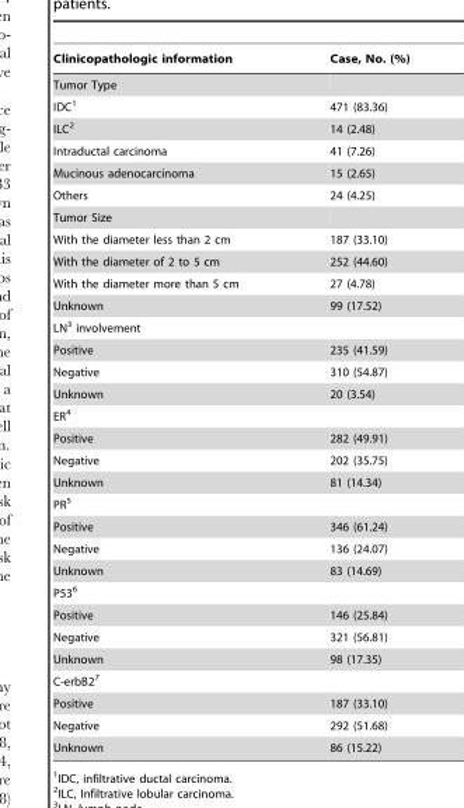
<table><thead><tr><td>Clinicopathologic information</td><td>Case, No. (%)</td></tr></thead><tbody><tr><td colspan="2">Tumor Type</td></tr><tr><td>IDC<sup>1</sup></td><td>471 (83.36)</td></tr><tr><td>ILC<sup>2</sup></td><td>14 (2.48)</td></tr><tr><td>Intraductal carcinoma</td><td>41 (7.26)</td></tr><tr><td>Mucinous adenocarcinoma</td><td>15 (2.65)</td></tr><tr><td>Others</td><td>24 (4.25)</td></tr><tr><td colspan="2">Tumor Size</td></tr><tr><td>With the diameter less than 2 cm</td><td>187 (33.10)</td></tr><tr><td>With the diameter of 2 to 5 cm</td><td>252 (44.60)</td></tr><tr><td>With the diameter more than 5 cm</td><td>27 (4.78)</td></tr><tr><td>Unknown</td><td>99 (17.52)</td></tr><tr><td colspan="2">LN<sup>3</sup> involvement</td></tr><tr><td>Positive</td><td>235 (41.59)</td></tr><tr><td>Negative</td><td>310 (54.87)</td></tr><tr><td>Unknown</td><td>20 (3.54)</td></tr><tr><td colspan="2">ER<sup>4</sup></td></tr><tr><td>Positive</td><td>282 (49.91)</td></tr><tr><td>Negative</td><td>202 (35.75)</td></tr><tr><td>Unknown</td><td>81 (14.34)</td></tr><tr><td colspan="2">PR<sup>5</sup></td></tr><tr><td>Positive</td><td>346 (61.24)</td></tr><tr><td>Negative</td><td>136 (24.07)</td></tr><tr><td>Unknown</td><td>83 (14.69)</td></tr><tr><td colspan="2">P53<sup>6</sup></td></tr><tr><td>Positive</td><td>146 (25.84)</td></tr><tr><td>Negative</td><td>321 (56.81)</td></tr><tr><td>Unknown</td><td>98 (17.35)</td></tr><tr><td colspan="2">C-erbB2<sup>7</sup></td></tr><tr><td>Positive</td><td>187 (33.10)</td></tr><tr><td>Negative</td><td>292 (51.68)</td></tr><tr><td>Unknown</td><td>86 (15.22)</td></tr></tbody></table>